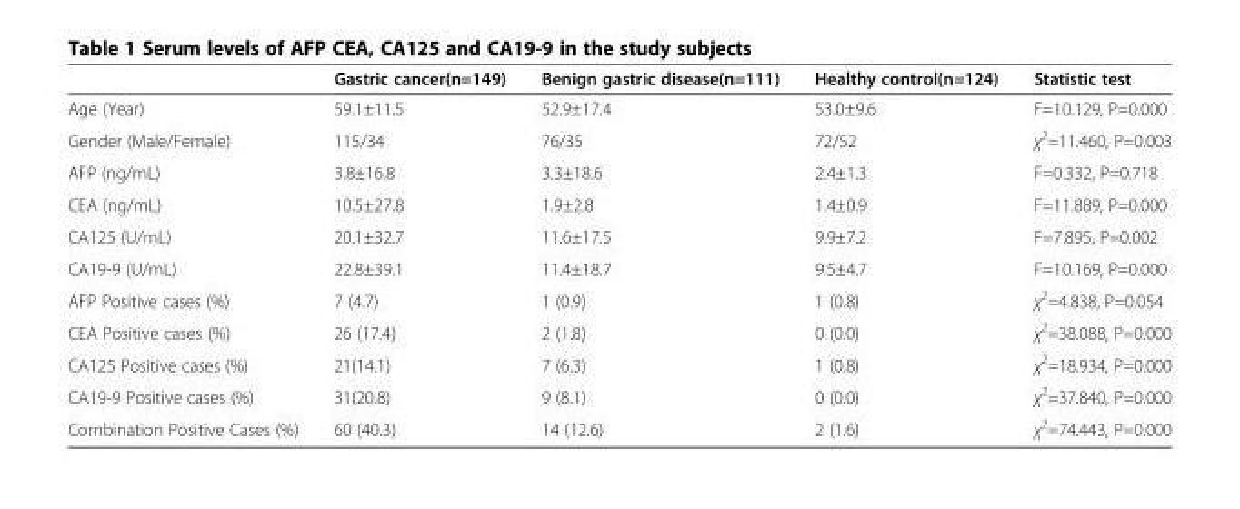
<table><thead><tr><td></td><td>Gastric cancer(n=149)</td><td>Benign gastric disease(n=111)</td><td>Healthy control(n=124)</td><td>Statistic test</td></tr></thead><tbody><tr><td>Age (Year)</td><td>59.1±11.5</td><td>52.9±17.4</td><td>53.0±9.6</td><td>F=10.129, P=0.000</td></tr><tr><td>Gender (Male/Female)</td><td>115/34</td><td>76/35</td><td>72/52</td><td>χ<sup>2</sup>=11.460, P=0.003</td></tr><tr><td>AFP (ng/mL)</td><td>3.8±16.8</td><td>3.3±18.6</td><td>2.4±1.3</td><td>F=0.332, P=0.718</td></tr><tr><td>CEA (ng/mL)</td><td>10.5±27.8</td><td>1.9±2.8</td><td>1.4±0.9</td><td>F=11.889, P=0.000</td></tr><tr><td>CA125 (U/mL)</td><td>20.1±32.7</td><td>11.6±17.5</td><td>9.9±7.2</td><td>F=7.895, P=0.002</td></tr><tr><td>CA19-9 (U/mL)</td><td>22.8±39.1</td><td>11.4±18.7</td><td>9.5±4.7</td><td>F=10.169, P=0.000</td></tr><tr><td>AFP Positive cases (%)</td><td>7 (4.7)</td><td>1 (0.9)</td><td>1 (0.8)</td><td>χ<sup>2</sup>=4.838, P=0.054</td></tr><tr><td>CEA Positive cases (%)</td><td>26 (17.4)</td><td>2 (1.8)</td><td>0 (0.0)</td><td>χ<sup>2</sup>=38.088, P=0.000</td></tr><tr><td>CA125 Positive cases (%)</td><td>21(14.1)</td><td>7 (6.3)</td><td>1 (0.8)</td><td>χ<sup>2</sup>=18.934, P=0.000</td></tr><tr><td>CA19-9 Positive cases (%)</td><td>31(20.8)</td><td>9 (8.1)</td><td>0 (0.0)</td><td>χ<sup>2</sup>=37.840, P=0.000</td></tr><tr><td>Combination Positive Cases (%)</td><td>60 (40.3)</td><td>14 (12.6)</td><td>2 (1.6)</td><td>χ<sup>2</sup>=74.443, P=0.000</td></tr></tbody></table>